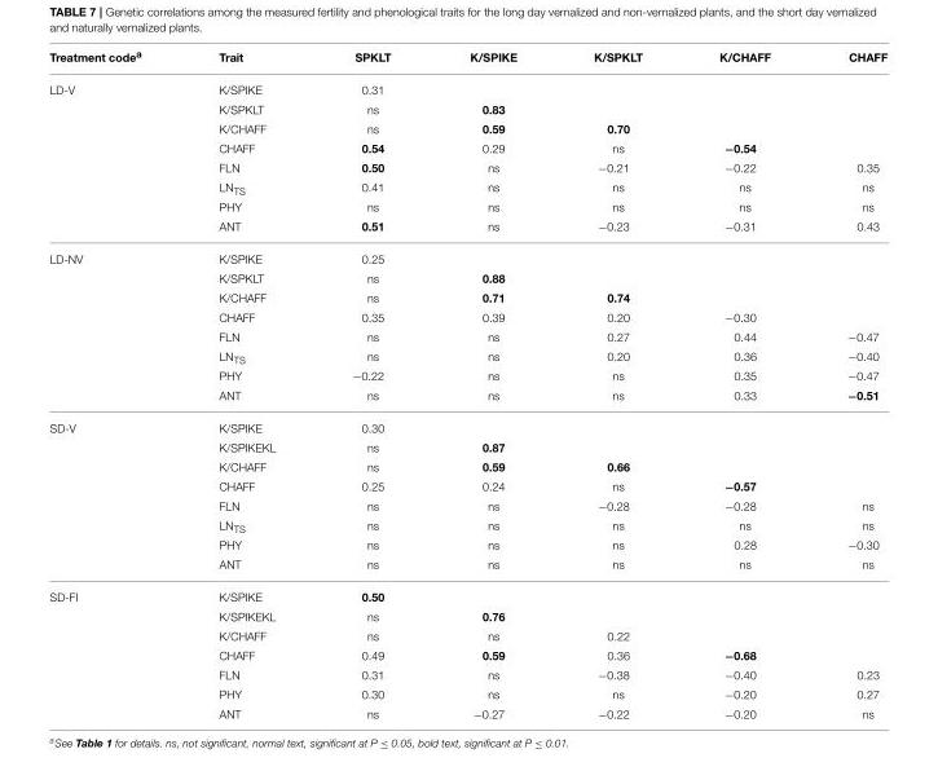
<table><thead><tr><td>Treatment code<sup>a</sup></td><td>Trait</td><td>SPKLT</td><td>K/SPIKE</td><td>K/SPKLT</td><td>K/CHAFF</td><td>CHAFF</td></tr></thead><tbody><tr><td rowspan="8">LD-V</td><td>K/SPIKE</td><td>0.31</td><td></td><td></td><td></td><td></td></tr><tr><td>K/SPKLT</td><td>ns</td><td>0.83</td><td></td><td></td><td></td></tr><tr><td>K/CHAFF</td><td>ns</td><td>0.59</td><td>0.70</td><td></td><td></td></tr><tr><td>CHAFF</td><td>0.54</td><td>0.29</td><td>ns</td><td>−0.54</td><td></td></tr><tr><td>FLN</td><td>0.50</td><td>ns</td><td>−0.21</td><td>−0.22</td><td>0.35</td></tr><tr><td>LN<sub>TS</sub></td><td>0.41</td><td>ns</td><td>ns</td><td>ns</td><td>ns</td></tr><tr><td>PHY</td><td>ns</td><td>ns</td><td>ns</td><td>ns</td><td>ns</td></tr><tr><td>ANT</td><td>0.51</td><td>ns</td><td>−0.23</td><td>−0.31</td><td>0.43</td></tr><tr><td rowspan="8">LD-NV</td><td>K/SPIKE</td><td>0.25</td><td></td><td></td><td></td><td></td></tr><tr><td>K/SPKLT</td><td>ns</td><td>0.88</td><td></td><td></td><td></td></tr><tr><td>K/CHAFF</td><td>ns</td><td>0.71</td><td>0.74</td><td></td><td></td></tr><tr><td>CHAFF</td><td>0.35</td><td>0.39</td><td>0.20</td><td>−0.30</td><td></td></tr><tr><td>FLN</td><td>ns</td><td>ns</td><td>0.27</td><td>0.44</td><td>−0.47</td></tr><tr><td>LN<sub>TS</sub></td><td>ns</td><td>ns</td><td>0.20</td><td>0.36</td><td>−0.40</td></tr><tr><td>PHY</td><td>−0.22</td><td>ns</td><td>ns</td><td>0.35</td><td>−0.47</td></tr><tr><td>ANT</td><td>ns</td><td>ns</td><td>ns</td><td>0.33</td><td>−0.51</td></tr><tr><td rowspan="8">SD-V</td><td>K/SPIKE</td><td>0.30</td><td></td><td></td><td></td><td></td></tr><tr><td>K/SPIKEKL</td><td>ns</td><td>0.87</td><td></td><td></td><td></td></tr><tr><td>K/CHAFF</td><td>ns</td><td>0.59</td><td>0.66</td><td></td><td></td></tr><tr><td>CHAFF</td><td>0.25</td><td>0.24</td><td>ns</td><td>−0.57</td><td></td></tr><tr><td>FLN</td><td>ns</td><td>ns</td><td>−0.28</td><td>−0.28</td><td>ns</td></tr><tr><td>LN<sub>TS</sub></td><td>ns</td><td>ns</td><td>ns</td><td>ns</td><td>ns</td></tr><tr><td>PHY</td><td>ns</td><td>ns</td><td>ns</td><td>0.28</td><td>−0.30</td></tr><tr><td>ANT</td><td>ns</td><td>ns</td><td>ns</td><td>ns</td><td>ns</td></tr><tr><td rowspan="7">SD-FI</td><td>K/SPIKE</td><td>0.50</td><td></td><td></td><td></td><td></td></tr><tr><td>K/SPIKEKL</td><td>ns</td><td>0.76</td><td></td><td></td><td></td></tr><tr><td>K/CHAFF</td><td>ns</td><td>ns</td><td>0.22</td><td></td><td></td></tr><tr><td>CHAFF</td><td>0.49</td><td>0.59</td><td>0.36</td><td>−0.68</td><td></td></tr><tr><td>FLN</td><td>0.31</td><td>ns</td><td>−0.38</td><td>−0.40</td><td>0.23</td></tr><tr><td>PHY</td><td>0.30</td><td>ns</td><td>ns</td><td>−0.20</td><td>0.27</td></tr><tr><td>ANT</td><td>ns</td><td>−0.27</td><td>−0.22</td><td>−0.20</td><td>ns</td></tr></tbody></table>